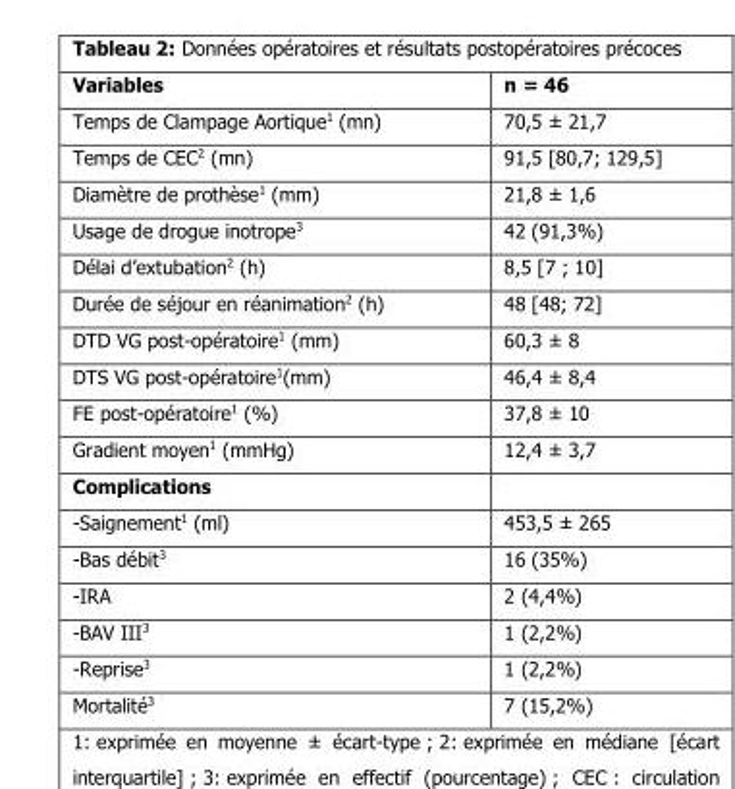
<table><thead><tr><td>Variables</td><td>n = 46</td></tr></thead><tbody><tr><td>Temps de Clampage Aortique<sup>1</sup> (mn)</td><td>70,5 ± 21,7</td></tr><tr><td>Temps de CEC<sup>2</sup> (mn)</td><td>91,5 [80,7; 129,5]</td></tr><tr><td>Diamètre de prothèse<sup>1</sup> (mm)</td><td>21,8 ± 1,6</td></tr><tr><td>Usage de drogue inotrope<sup>3</sup></td><td>42 (91,3%)</td></tr><tr><td>Délai d’extubation<sup>2</sup> (h)</td><td>8,5 [7 ; 10]</td></tr><tr><td>Durée de séjour en réanimation<sup>2</sup> (h)</td><td>48 [48; 72]</td></tr><tr><td>DTD VG post-opératoire<sup>1</sup> (mm)</td><td>60,3 ± 8</td></tr><tr><td>DTS VG post-opératoire<sup>1</sup>(mm)</td><td>46,4 ± 8,4</td></tr><tr><td>FE post-opératoire<sup>1</sup> (%)</td><td>37,8 ± 10</td></tr><tr><td>Gradient moyen<sup>1</sup> (mmHg)</td><td>12,4 ± 3,7</td></tr><tr><td colspan="2">Complications</td></tr><tr><td>-Saignement<sup>1</sup> (ml)</td><td>453,5 ± 265</td></tr><tr><td>-Bas débit<sup>3</sup></td><td>16 (35%)</td></tr><tr><td>-IRA</td><td>2 (4,4%)</td></tr><tr><td>-BAV III<sup>3</sup></td><td>1 (2,2%)</td></tr><tr><td>-Reprise<sup>3</sup></td><td>1 (2,2%)</td></tr><tr><td>Mortalité<sup>3</sup></td><td>7 (15,2%)</td></tr></tbody></table>